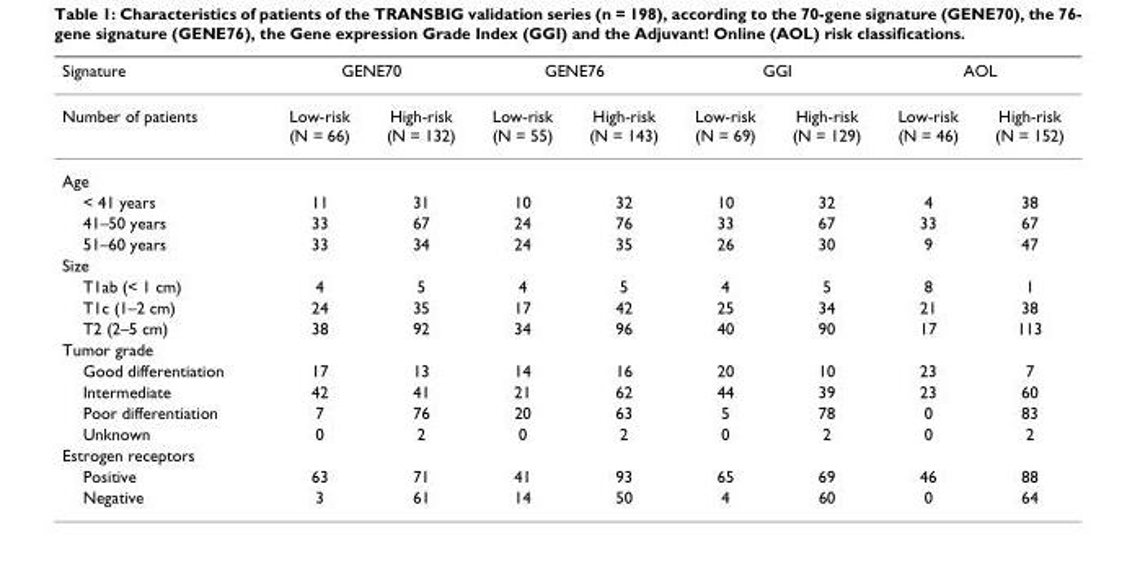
<table><thead><tr><td rowspan="2">Signature Number of patients</td><td colspan="2">GENE70</td><td colspan="2">GENE76</td><td colspan="2">GGI</td><td colspan="2">AOL</td></tr><tr><td>Low-risk (N = 66)</td><td>High-risk (N = 132)</td><td>Low-risk (N = 55)</td><td>High-risk (N = 143)</td><td>Low-risk (N = 69)</td><td>High-risk (N = 129)</td><td>Low-risk (N = 46)</td><td>High-risk (N = 152)</td></tr></thead><tbody><tr><td colspan="9">Age</td></tr><tr><td>&lt; 41 years</td><td>11</td><td>31</td><td>10</td><td>32</td><td>10</td><td>32</td><td>4</td><td>38</td></tr><tr><td>41–50 years</td><td>33</td><td>67</td><td>24</td><td>76</td><td>33</td><td>67</td><td>33</td><td>67</td></tr><tr><td>51–60 years</td><td>33</td><td>34</td><td>24</td><td>35</td><td>26</td><td>30</td><td>9</td><td>47</td></tr><tr><td colspan="9">Size</td></tr><tr><td>T1ab (&lt; 1 cm)</td><td>4</td><td>5</td><td>4</td><td>5</td><td>4</td><td>5</td><td>8</td><td>1</td></tr><tr><td>T1c (1–2 cm)</td><td>24</td><td>35</td><td>17</td><td>42</td><td>25</td><td>34</td><td>21</td><td>38</td></tr><tr><td>T2 (2–5 cm)</td><td>38</td><td>92</td><td>34</td><td>96</td><td>40</td><td>90</td><td>17</td><td>113</td></tr><tr><td colspan="9">Tumor grade</td></tr><tr><td>Good differentiation</td><td>17</td><td>13</td><td>14</td><td>16</td><td>20</td><td>10</td><td>23</td><td>7</td></tr><tr><td>Intermediate</td><td>42</td><td>41</td><td>21</td><td>62</td><td>44</td><td>39</td><td>23</td><td>60</td></tr><tr><td>Poor differentiation</td><td>7</td><td>76</td><td>20</td><td>63</td><td>5</td><td>78</td><td>0</td><td>83</td></tr><tr><td>Unknown</td><td>0</td><td>2</td><td>0</td><td>2</td><td>0</td><td>2</td><td>0</td><td>2</td></tr><tr><td colspan="9">Estrogen receptors</td></tr><tr><td>Positive</td><td>63</td><td>71</td><td>41</td><td>93</td><td>65</td><td>69</td><td>46</td><td>88</td></tr><tr><td>Negative</td><td>3</td><td>61</td><td>14</td><td>50</td><td>4</td><td>60</td><td>0</td><td>64</td></tr></tbody></table>